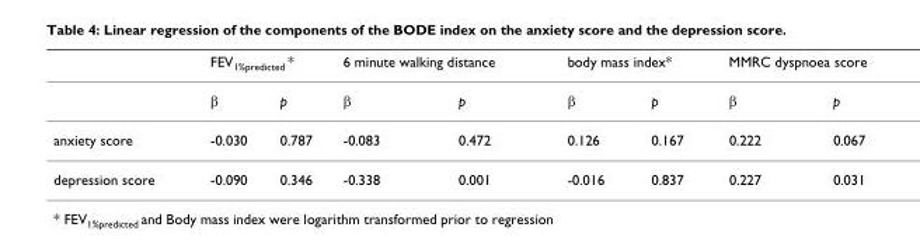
<table><thead><tr><td rowspan="2"></td><td colspan="2">FEV<sub>1%predicted</sub> *</td><td colspan="2">6 minute walking distance</td><td colspan="2">body mass index*</td><td colspan="2">MMRC dyspnoea score</td></tr><tr><td>β</td><td>p</td><td>β</td><td>p</td><td>β</td><td>p</td><td>β</td><td>p</td></tr></thead><tbody><tr><td>anxiety score</td><td>-0.030</td><td>0.787</td><td>-0.083</td><td>0.472</td><td>0.126</td><td>0.167</td><td>0.222</td><td>0.067</td></tr><tr><td>depression score</td><td>-0.090</td><td>0.346</td><td>-0.338</td><td>0.001</td><td>-0.016</td><td>0.837</td><td>0.227</td><td>0.031</td></tr></tbody></table>